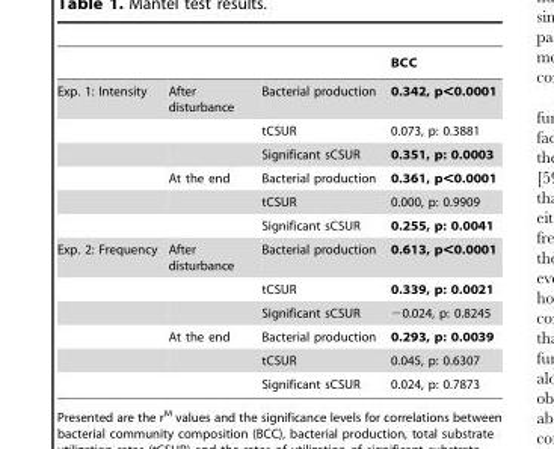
<table><thead><tr><td></td><td></td><td></td><td>BCC</td></tr></thead><tbody><tr><td rowspan="6">Exp. 1: Intensity</td><td>After disturbance</td><td>Bacterial production</td><td>0.342, p&lt;0.0001</td></tr><tr><td></td><td>tCSUR</td><td>0.073, p: 0.3881</td></tr><tr><td></td><td>Significant sCSUR</td><td>0.351, p: 0.0003</td></tr><tr><td>At the end</td><td>Bacterial production</td><td>0.361, p&lt;0.0001</td></tr><tr><td></td><td>tCSUR</td><td>0.000, p: 0.9909</td></tr><tr><td></td><td>Significant sCSUR</td><td>0.255, p: 0.0041</td></tr><tr><td rowspan="6">Exp. 2: Frequency</td><td>After disturbance</td><td>Bacterial production</td><td>0.613, p&lt;0.0001</td></tr><tr><td></td><td>tCSUR</td><td>0.339, p: 0.0021</td></tr><tr><td></td><td>Significant sCSUR</td><td>−0.024, p: 0.8245</td></tr><tr><td>At the end</td><td>Bacterial production</td><td>0.293, p: 0.0039</td></tr><tr><td></td><td>tCSUR</td><td>0.045, p: 0.6307</td></tr><tr><td></td><td>Significant sCSUR</td><td>0.024, p: 0.7873</td></tr></tbody></table>